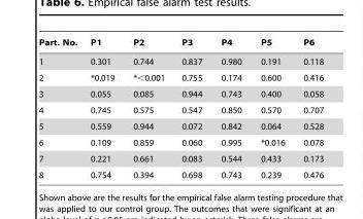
<table><thead><tr><td>Part. No.</td><td>P1</td><td>P2</td><td>P3</td><td>P4</td><td>P5</td><td>P6</td></tr></thead><tbody><tr><td>1</td><td>0.301</td><td>0.744</td><td>0.837</td><td>0.980</td><td>0.191</td><td>0.118</td></tr><tr><td>2</td><td>*0.019</td><td>*&lt;0.001</td><td>0.755</td><td>0.174</td><td>0.600</td><td>0.416</td></tr><tr><td>3</td><td>0.055</td><td>0.085</td><td>0.944</td><td>0.743</td><td>0.400</td><td>0.058</td></tr><tr><td>4</td><td>0.745</td><td>0.575</td><td>0.547</td><td>0.850</td><td>0.570</td><td>0.707</td></tr><tr><td>5</td><td>0.559</td><td>0.944</td><td>0.072</td><td>0.842</td><td>0.064</td><td>0.528</td></tr><tr><td>6</td><td>0.109</td><td>0.859</td><td>0.060</td><td>0.995</td><td>*0.016</td><td>0.078</td></tr><tr><td>7</td><td>0.221</td><td>0.661</td><td>0.083</td><td>0.544</td><td>0.433</td><td>0.173</td></tr><tr><td>8</td><td>0.754</td><td>0.394</td><td>0.698</td><td>0.743</td><td>0.239</td><td>0.476</td></tr></tbody></table>